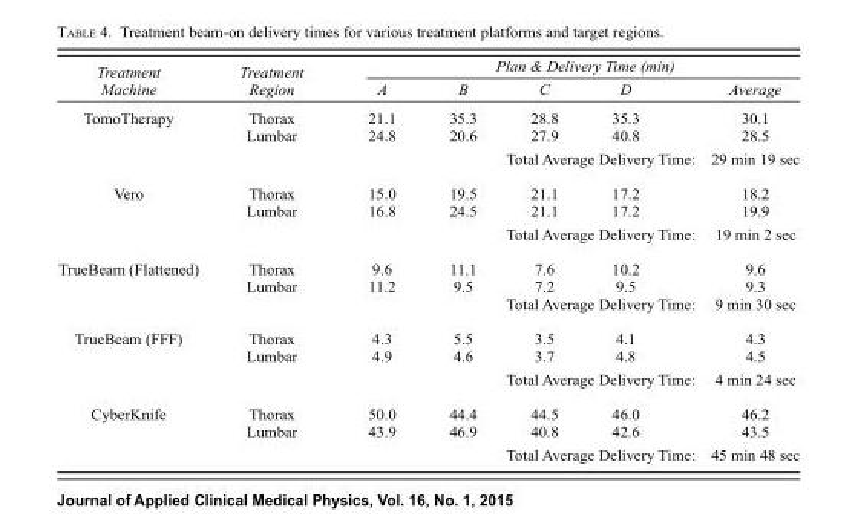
<table><thead><tr><td rowspan="2">Treatment Machine</td><td rowspan="2">Treatment Region</td><td colspan="5">Plan &amp; Delivery Time (min)</td></tr><tr><td>A</td><td>B</td><td>C</td><td>D</td><td>Average</td></tr></thead><tbody><tr><td rowspan="3">TomoTherapy</td><td>Thorax</td><td>21.1</td><td>35.3</td><td>28.8</td><td>35.3</td><td>30.1</td></tr><tr><td>Lumbar</td><td>24.8</td><td>20.6</td><td>27.9</td><td>40.8</td><td>28.5</td></tr><tr><td></td><td></td><td></td><td colspan="2">Total Average Delivery Time:</td><td>29 min 19 sec</td></tr><tr><td rowspan="3">Vero</td><td>Thorax</td><td>15.0</td><td>19.5</td><td>21.1</td><td>17.2</td><td>18.2</td></tr><tr><td>Lumbar</td><td>16.8</td><td>24.5</td><td>21.1</td><td>17.2</td><td>19.9</td></tr><tr><td></td><td></td><td></td><td colspan="2">Total Average Delivery Time:</td><td>19 min 2 sec</td></tr><tr><td rowspan="3">TrueBeam (Flattened)</td><td>Thorax</td><td>9.6</td><td>11.1</td><td>7.6</td><td>10.2</td><td>9.6</td></tr><tr><td>Lumbar</td><td>11.2</td><td>9.5</td><td>7.2</td><td>9.5</td><td>9.3</td></tr><tr><td></td><td></td><td></td><td colspan="2">Total Average Delivery Time:</td><td>9 min 30 sec</td></tr><tr><td rowspan="3">TrueBeam (FFF)</td><td>Thorax</td><td>4.3</td><td>5.5</td><td>3.5</td><td>4.1</td><td>4.3</td></tr><tr><td>Lumbar</td><td>4.9</td><td>4.6</td><td>3.7</td><td>4.8</td><td>4.5</td></tr><tr><td></td><td></td><td></td><td colspan="2">Total Average Delivery Time:</td><td>4 min 24 sec</td></tr><tr><td rowspan="3">CyberKnife</td><td>Thorax</td><td>50.0</td><td>44.4</td><td>44.5</td><td>46.0</td><td>46.2</td></tr><tr><td>Lumbar</td><td>43.9</td><td>46.9</td><td>40.8</td><td>42.6</td><td>43.5</td></tr><tr><td></td><td></td><td></td><td colspan="2">Total Average Delivery Time:</td><td>45 min 48 sec</td></tr></tbody></table>